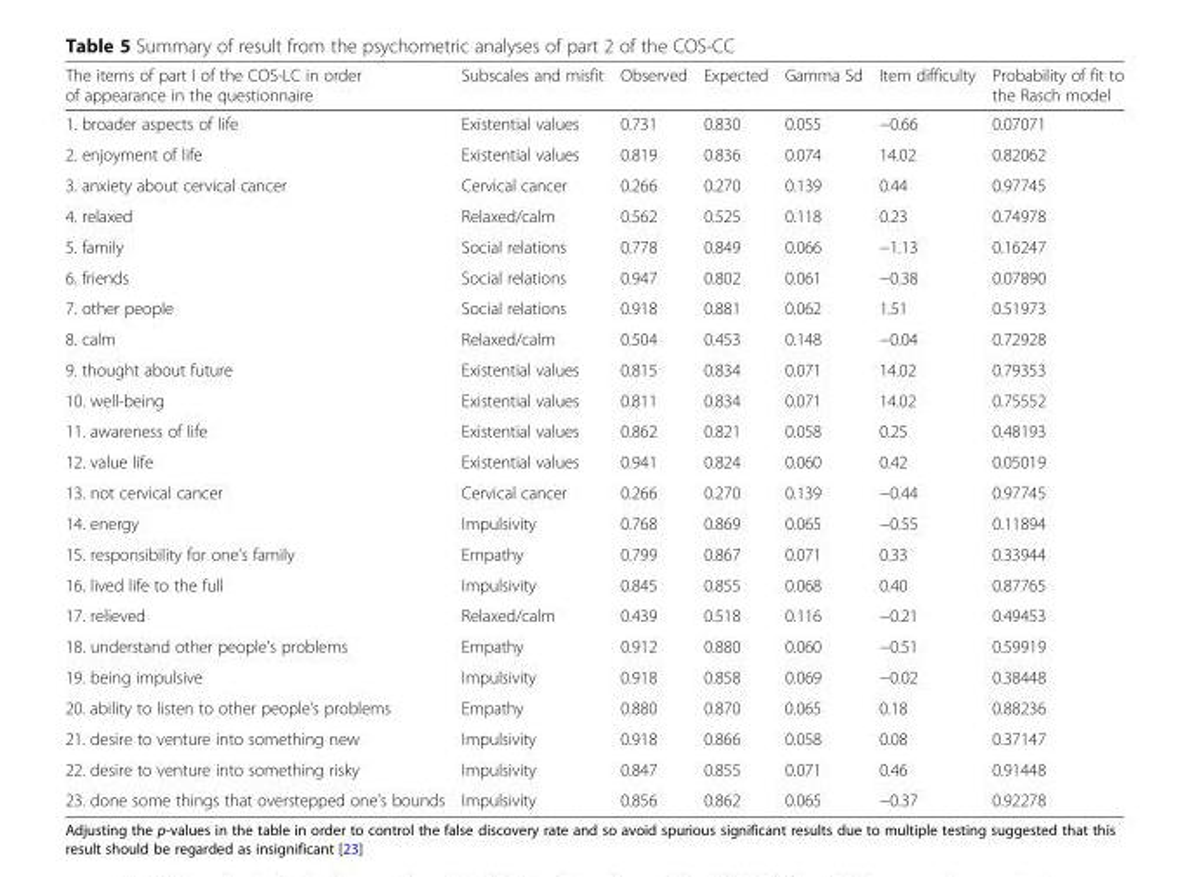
<table><thead><tr><td>The items of part I of the COS-LC in order of appearance in the questionnaire</td><td>Subscales and misfit</td><td>Observed</td><td>Expected</td><td>Gamma Sd</td><td>Item difficulty</td><td>Probability of fit to the Rasch model</td></tr></thead><tbody><tr><td>1. broader aspects of life</td><td>Existential values</td><td>0.731</td><td>0.830</td><td>0.055</td><td>−0.66</td><td>0.07071</td></tr><tr><td>2. enjoyment of life</td><td>Existential values</td><td>0.819</td><td>0.836</td><td>0.074</td><td>14.02</td><td>0.82062</td></tr><tr><td>3. anxiety about cervical cancer</td><td>Cervical cancer</td><td>0.266</td><td>0.270</td><td>0.139</td><td>0.44</td><td>0.97745</td></tr><tr><td>4. relaxed</td><td>Relaxed/calm</td><td>0.562</td><td>0.525</td><td>0.118</td><td>0.23</td><td>0.74978</td></tr><tr><td>5. family</td><td>Social relations</td><td>0.778</td><td>0.849</td><td>0.066</td><td>−1.13</td><td>0.16247</td></tr><tr><td>6. friends</td><td>Social relations</td><td>0.947</td><td>0.802</td><td>0.061</td><td>−0.38</td><td>0.07890</td></tr><tr><td>7. other people</td><td>Social relations</td><td>0.918</td><td>0.881</td><td>0.062</td><td>1.51</td><td>0.51973</td></tr><tr><td>8. calm</td><td>Relaxed/calm</td><td>0.504</td><td>0.453</td><td>0.148</td><td>−0.04</td><td>0.72928</td></tr><tr><td>9. thought about future</td><td>Existential values</td><td>0.815</td><td>0.834</td><td>0.071</td><td>14.02</td><td>0.79353</td></tr><tr><td>10. well-being</td><td>Existential values</td><td>0.811</td><td>0.834</td><td>0.071</td><td>14.02</td><td>0.75552</td></tr><tr><td>11. awareness of life</td><td>Existential values</td><td>0.862</td><td>0.821</td><td>0.058</td><td>0.25</td><td>0.48193</td></tr><tr><td>12. value life</td><td>Existential values</td><td>0.941</td><td>0.824</td><td>0.060</td><td>0.42</td><td>0.05019</td></tr><tr><td>13. not cervical cancer</td><td>Cervical cancer</td><td>0.266</td><td>0.270</td><td>0.139</td><td>−0.44</td><td>0.97745</td></tr><tr><td>14. energy</td><td>Impulsivity</td><td>0.768</td><td>0.869</td><td>0.065</td><td>−0.55</td><td>0.11894</td></tr><tr><td>15. responsibility for one’s family</td><td>Empathy</td><td>0.799</td><td>0.867</td><td>0.071</td><td>0.33</td><td>0.33944</td></tr><tr><td>16. lived life to the full</td><td>Impulsivity</td><td>0.845</td><td>0.855</td><td>0.068</td><td>0.40</td><td>0.87765</td></tr><tr><td>17. relieved</td><td>Relaxed/calm</td><td>0.439</td><td>0.518</td><td>0.116</td><td>−0.21</td><td>0.49453</td></tr><tr><td>18. understand other people’s problems</td><td>Empathy</td><td>0.912</td><td>0.880</td><td>0.060</td><td>−0.51</td><td>0.59919</td></tr><tr><td>19. being impulsive</td><td>Impulsivity</td><td>0.918</td><td>0.858</td><td>0.069</td><td>−0.02</td><td>0.38448</td></tr><tr><td>20. ability to listen to other people’s problems</td><td>Empathy</td><td>0.880</td><td>0.870</td><td>0.065</td><td>0.18</td><td>0.88236</td></tr><tr><td>21. desire to venture into something new</td><td>Impulsivity</td><td>0.918</td><td>0.866</td><td>0.058</td><td>0.08</td><td>0.37147</td></tr><tr><td>22. desire to venture into something risky</td><td>Impulsivity</td><td>0.847</td><td>0.855</td><td>0.071</td><td>0.46</td><td>0.91448</td></tr><tr><td>23. done some things that overstepped one’s bounds</td><td>Impulsivity</td><td>0.856</td><td>0.862</td><td>0.065</td><td>−0.37</td><td>0.92278</td></tr></tbody></table>